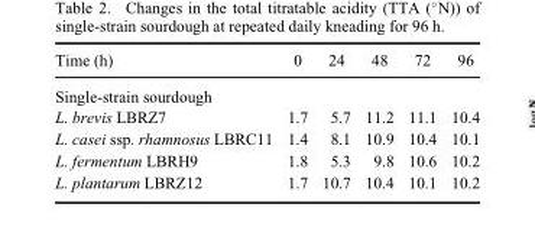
<table><thead><tr><td rowspan="2">Time (h) Single-strain sourdough</td><td rowspan="2">0</td><td rowspan="2">24</td><td rowspan="2">48</td><td rowspan="2">72</td><td rowspan="2">96</td></tr><tr></tr></thead><tbody><tr><td>L. brevis LBRZ7</td><td>1.7</td><td>5.7</td><td>11.2</td><td>11.1</td><td>10.4</td></tr><tr><td>L. casei ssp. rhamnosus LBRC11</td><td>1.4</td><td>8.1</td><td>10.9</td><td>10.4</td><td>10.1</td></tr><tr><td>L. fermentum LBRH9</td><td>1.8</td><td>5.3</td><td>9.8</td><td>10.6</td><td>10.2</td></tr><tr><td>L. plantarum LBRZ12</td><td>1.7</td><td>10.7</td><td>10.4</td><td>10.1</td><td>10.2</td></tr></tbody></table>